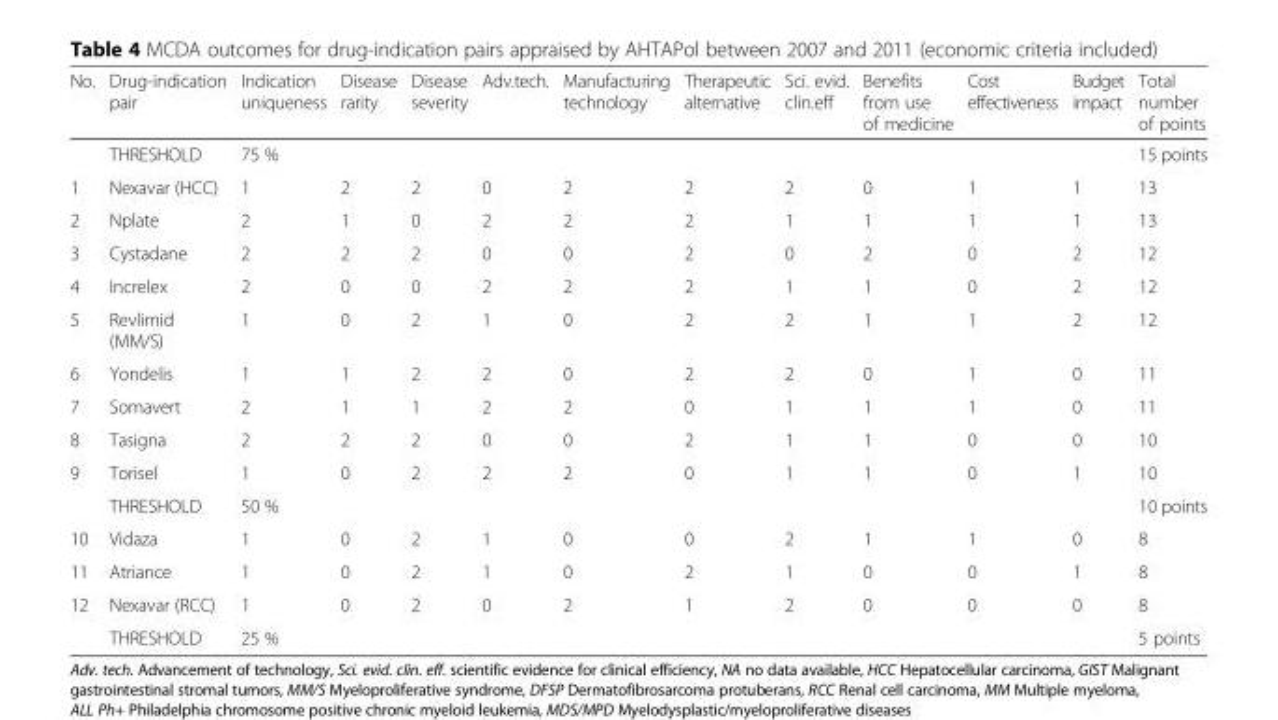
<table><thead><tr><td>No.</td><td>Drug-indication pair</td><td>Indication uniqueness</td><td>Disease rarity</td><td>Disease severity</td><td>Adv.tech.</td><td>Manufacturing technology</td><td>Therapeutic alternative</td><td>Sci. evid. clin.eff</td><td>Benefits from use of medicine</td><td>Cost effectiveness</td><td>Budget impact</td><td>Total number of points</td></tr></thead><tbody><tr><td></td><td>THRESHOLD</td><td>75 %</td><td></td><td></td><td></td><td></td><td></td><td></td><td></td><td></td><td></td><td>15 points</td></tr><tr><td>1</td><td>Nexavar (HCC)</td><td>1</td><td>2</td><td>2</td><td>0</td><td>2</td><td>2</td><td>2</td><td>0</td><td>1</td><td>1</td><td>13</td></tr><tr><td>2</td><td>Nplate</td><td>2</td><td>1</td><td>0</td><td>2</td><td>2</td><td>2</td><td>1</td><td>1</td><td>1</td><td>1</td><td>13</td></tr><tr><td>3</td><td>Cystadane</td><td>2</td><td>2</td><td>2</td><td>0</td><td>0</td><td>2</td><td>0</td><td>2</td><td>0</td><td>2</td><td>12</td></tr><tr><td>4</td><td>Increlex</td><td>2</td><td>0</td><td>0</td><td>2</td><td>2</td><td>2</td><td>1</td><td>1</td><td>0</td><td>2</td><td>12</td></tr><tr><td>5</td><td>Revlimid (MM/S)</td><td>1</td><td>0</td><td>2</td><td>1</td><td>0</td><td>2</td><td>2</td><td>1</td><td>1</td><td>2</td><td>12</td></tr><tr><td>6</td><td>Yondelis</td><td>1</td><td>1</td><td>2</td><td>2</td><td>0</td><td>2</td><td>2</td><td>0</td><td>1</td><td>0</td><td>11</td></tr><tr><td>7</td><td>Somavert</td><td>2</td><td>1</td><td>1</td><td>2</td><td>2</td><td>0</td><td>1</td><td>1</td><td>1</td><td>0</td><td>11</td></tr><tr><td>8</td><td>Tasigna</td><td>2</td><td>2</td><td>2</td><td>0</td><td>0</td><td>2</td><td>1</td><td>1</td><td>0</td><td>0</td><td>10</td></tr><tr><td rowspan="2">9</td><td>Torisel</td><td>1</td><td>0</td><td>2</td><td>2</td><td>2</td><td>0</td><td>1</td><td>1</td><td>0</td><td>1</td><td>10</td></tr><tr><td>THRESHOLD</td><td>50 %</td><td></td><td></td><td></td><td></td><td></td><td></td><td></td><td></td><td></td><td>10 points</td></tr><tr><td>10</td><td>Vidaza</td><td>1</td><td>0</td><td>2</td><td>1</td><td>0</td><td>0</td><td>2</td><td>1</td><td>1</td><td>0</td><td>8</td></tr><tr><td>11</td><td>Atriance</td><td>1</td><td>0</td><td>2</td><td>1</td><td>0</td><td>2</td><td>1</td><td>0</td><td>0</td><td>1</td><td>8</td></tr><tr><td rowspan="2">12</td><td>Nexavar (RCC)</td><td>1</td><td>0</td><td>2</td><td>0</td><td>2</td><td>1</td><td>2</td><td>0</td><td>0</td><td>0</td><td>8</td></tr><tr><td>THRESHOLD</td><td>25 %</td><td></td><td></td><td></td><td></td><td></td><td></td><td></td><td></td><td></td><td>5 points</td></tr></tbody></table>